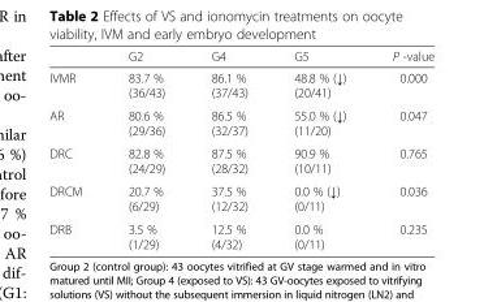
<table><thead><tr><td></td><td>G2</td><td>G4</td><td>G5</td><td>P -value</td></tr></thead><tbody><tr><td>IVMR</td><td>83.7 % (36/43)</td><td>86.1 % (37/43)</td><td>48.8 % (↓) (20/41)</td><td>0.000</td></tr><tr><td>AR</td><td>80.6 % (29/36)</td><td>86.5 % (32/37)</td><td>55.0 % (↓) (11/20)</td><td>0.047</td></tr><tr><td>DRC</td><td>82.8 % (24/29)</td><td>87.5 % (28/32)</td><td>90.9 % (10/11)</td><td>0.765</td></tr><tr><td>DRCM</td><td>20.7 % (6/29)</td><td>37.5 % (12/32)</td><td>0.0 % (↓) (0/11)</td><td>0.036</td></tr><tr><td>DRB</td><td>3.5 % (1/29)</td><td>12.5 % (4/32)</td><td>0.0 % (0/11)</td><td>0.235</td></tr></tbody></table>